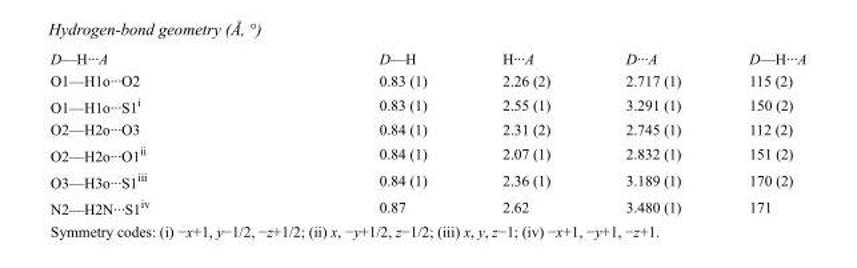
<table><tbody><tr><td>D—H···A</td><td>D—H</td><td>H···A</td><td>D···A</td><td>D—H···A</td></tr><tr><td>O1—H1o···O2</td><td>0.83 (1)</td><td>2.26 (2)</td><td>2.717 (1)</td><td>115 (2)</td></tr><tr><td>O1—H1o···S1<sup>i</sup></td><td>0.83 (1)</td><td>2.55 (1)</td><td>3.291 (1)</td><td>150 (2)</td></tr><tr><td>O2—H2o···O3</td><td>0.84 (1)</td><td>2.31 (2)</td><td>2.745 (1)</td><td>112 (2)</td></tr><tr><td>O2—H2o···O1<sup>ii</sup></td><td>0.84 (1)</td><td>2.07 (1)</td><td>2.832 (1)</td><td>151 (2)</td></tr><tr><td>O3—H3o···S1<sup>iii</sup></td><td>0.84 (1)</td><td>2.36 (1)</td><td>3.189 (1)</td><td>170 (2)</td></tr><tr><td>N2—H2N···S1<sup>iv</sup></td><td>0.87</td><td>2.62</td><td>3.480 (1)</td><td>171</td></tr></tbody></table>